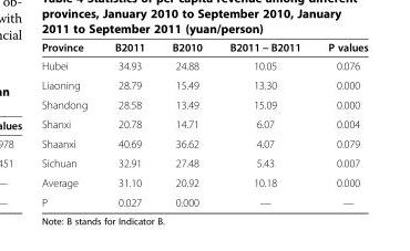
<table><thead><tr><td>Province</td><td>B2011</td><td>B2010</td><td>B2011 − B2011</td><td>P values</td></tr></thead><tbody><tr><td>Hubei</td><td>34.93</td><td>24.88</td><td>10.05</td><td>0.076</td></tr><tr><td>Liaoning</td><td>28.79</td><td>15.49</td><td>13.30</td><td>0.000</td></tr><tr><td>Shandong</td><td>28.58</td><td>13.49</td><td>15.09</td><td>0.000</td></tr><tr><td>Shanxi</td><td>20.78</td><td>14.71</td><td>6.07</td><td>0.004</td></tr><tr><td>Shaanxi</td><td>40.69</td><td>36.62</td><td>4.07</td><td>0.079</td></tr><tr><td>Sichuan</td><td>32.91</td><td>27.48</td><td>5.43</td><td>0.007</td></tr><tr><td>Average</td><td>31.10</td><td>20.92</td><td>10.18</td><td>0.000</td></tr><tr><td>P</td><td>0.027</td><td>0.000</td><td>—</td><td>—</td></tr></tbody></table>